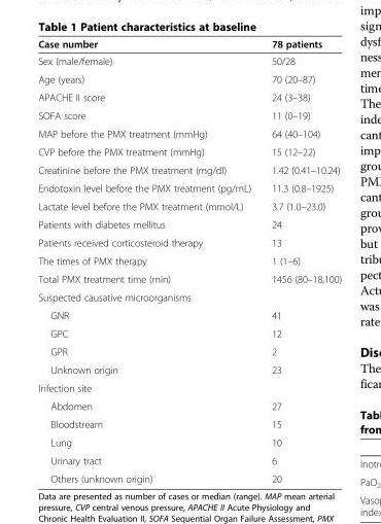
<table><thead><tr><td>Case number</td><td>78 patients</td></tr></thead><tbody><tr><td>Sex (male/female)</td><td>50/28</td></tr><tr><td>Age (years)</td><td>70 (20–87)</td></tr><tr><td>APACHE II score</td><td>24 (3–38)</td></tr><tr><td>SOFA score</td><td>11 (0–19)</td></tr><tr><td>MAP before the PMX treatment (mmHg)</td><td>64 (40–104)</td></tr><tr><td>CVP before the PMX treatment (mmHg)</td><td>15 (12–22)</td></tr><tr><td>Creatinine before the PMX treatment (mg/dl)</td><td>1.42 (0.41–10.24)</td></tr><tr><td>Endotoxin level before the PMX treatment (pg/mL)</td><td>11.3 (0.8–1925)</td></tr><tr><td>Lactate level before the PMX treatment (mmol/L)</td><td>3.7 (1.0–23.0)</td></tr><tr><td>Patients with diabetes mellitus</td><td>24</td></tr><tr><td>Patients received corticosteroid therapy</td><td>13</td></tr><tr><td>The times of PMX therapy</td><td>1 (1–6)</td></tr><tr><td>Total PMX treatment time (min)</td><td>1456 (80–18,100)</td></tr><tr><td colspan="2">Suspected causative microorganisms</td></tr><tr><td>GNR</td><td>41</td></tr><tr><td>GPC</td><td>12</td></tr><tr><td>GPR</td><td>2</td></tr><tr><td>Unknown origin</td><td>23</td></tr><tr><td colspan="2">Infection site</td></tr><tr><td>Abdomen</td><td>27</td></tr><tr><td>Bloodstream</td><td>15</td></tr><tr><td>Lung</td><td>10</td></tr><tr><td>Urinary tract</td><td>6</td></tr><tr><td>Others (unknown origin)</td><td>20</td></tr></tbody></table>